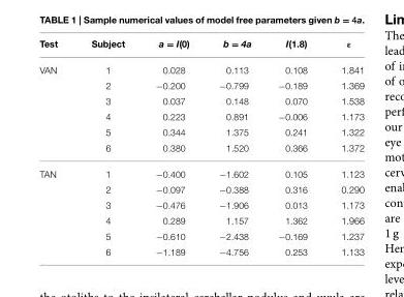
<table><thead><tr><td>Test</td><td>Subject</td><td>a = I(0)</td><td>b = 4a</td><td>I(1.8)</td><td>ε</td></tr></thead><tbody><tr><td rowspan="6">VAN</td><td>1</td><td>0.028</td><td>0.113</td><td>0.108</td><td>1.841</td></tr><tr><td>2</td><td>−0.200</td><td>−0.799</td><td>−0.189</td><td>1.369</td></tr><tr><td>3</td><td>0.037</td><td>0.148</td><td>0.070</td><td>1.538</td></tr><tr><td>4</td><td>0.223</td><td>0.891</td><td>−0.006</td><td>1.173</td></tr><tr><td>5</td><td>0.344</td><td>1.375</td><td>0.241</td><td>1.322</td></tr><tr><td>6</td><td>0.380</td><td>1.520</td><td>0.366</td><td>1.372</td></tr><tr><td rowspan="6">TAN</td><td>1</td><td>−0.400</td><td>−1.602</td><td>0.105</td><td>1.123</td></tr><tr><td>2</td><td>−0.097</td><td>−0.388</td><td>0.316</td><td>0.290</td></tr><tr><td>3</td><td>−0.476</td><td>−1.906</td><td>0.013</td><td>1.173</td></tr><tr><td>4</td><td>0.289</td><td>1.157</td><td>1.362</td><td>1.966</td></tr><tr><td>5</td><td>−0.610</td><td>−2.438</td><td>−0.169</td><td>1.237</td></tr><tr><td>6</td><td>−1.189</td><td>−4.756</td><td>0.253</td><td>1.133</td></tr></tbody></table>